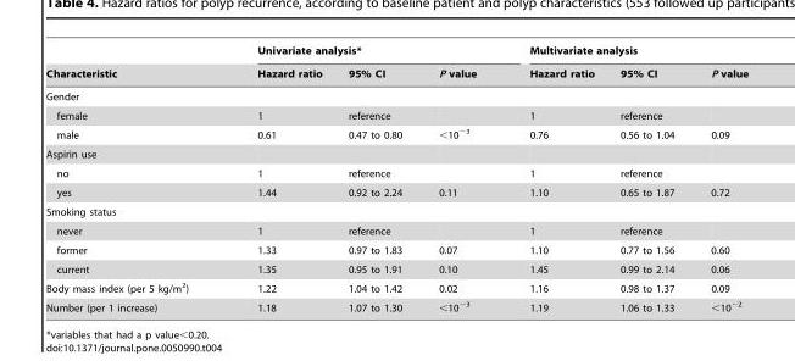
<table><thead><tr><td rowspan="2">Characteristic</td><td colspan="3">Univariate analysis*</td><td colspan="3">Multivariate analysis</td></tr><tr><td>Hazard ratio</td><td>95% CI</td><td>P value</td><td>Hazard ratio</td><td>95% CI</td><td>P value</td></tr></thead><tbody><tr><td colspan="7">Gender</td></tr><tr><td>female</td><td>1</td><td>reference</td><td></td><td>1</td><td>reference</td><td></td></tr><tr><td>male</td><td>0.61</td><td>0.47 to 0.80</td><td>&lt;10<sup>−3</sup></td><td>0.76</td><td>0.56 to 1.04</td><td>0.09</td></tr><tr><td colspan="7">Aspirin use</td></tr><tr><td>no</td><td>1</td><td>reference</td><td></td><td>1</td><td>reference</td><td></td></tr><tr><td>yes</td><td>1.44</td><td>0.92 to 2.24</td><td>0.11</td><td>1.10</td><td>0.65 to 1.87</td><td>0.72</td></tr><tr><td colspan="7">Smoking status</td></tr><tr><td>never</td><td>1</td><td>reference</td><td></td><td>1</td><td>reference</td><td></td></tr><tr><td>former</td><td>1.33</td><td>0.97 to 1.83</td><td>0.07</td><td>1.10</td><td>0.77 to 1.56</td><td>0.60</td></tr><tr><td>current</td><td>1.35</td><td>0.95 to 1.91</td><td>0.10</td><td>1.45</td><td>0.99 to 2.14</td><td>0.06</td></tr><tr><td>Body mass index (per 5 kg/m<sup>2</sup>)</td><td>1.22</td><td>1.04 to 1.42</td><td>0.02</td><td>1.16</td><td>0.98 to 1.37</td><td>0.09</td></tr><tr><td>Number (per 1 increase)</td><td>1.18</td><td>1.07 to 1.30</td><td>&lt;10<sup>−3</sup></td><td>1.19</td><td>1.06 to 1.33</td><td>&lt;10<sup>−2</sup></td></tr></tbody></table>